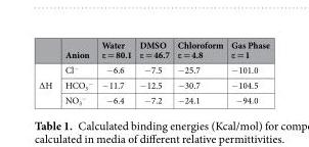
<table><thead><tr><td></td><td>Anion</td><td>Water ε = 80.1</td><td>DMSO ε = 46.7</td><td>Chloroform ε = 4.8</td><td>Gas Phase ε = 1</td></tr></thead><tbody><tr><td rowspan="3">∆H</td><td>Cl<sup>−</sup></td><td>−6.6</td><td>−7.5</td><td>−25.7</td><td>−101.0</td></tr><tr><td>HCO<sub>3</sub> <sup>−</sup></td><td>−11.7</td><td>−12.5</td><td>−30.7</td><td>−104.5</td></tr><tr><td>NO<sub>3</sub> <sup>−</sup></td><td>−6.4</td><td>−7.2</td><td>−24.1</td><td>−94.0</td></tr></tbody></table>